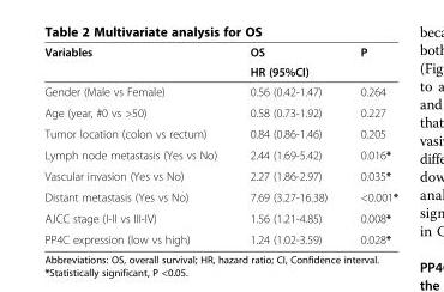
<table><thead><tr><td rowspan="2">Variables</td><td rowspan="2">OS HR (95%CI)</td><td rowspan="2">P</td></tr><tr></tr></thead><tbody><tr><td>Gender (Male vs Female)</td><td>0.56 (0.42-1.47)</td><td>0.264</td></tr><tr><td>Age (year, #0 vs &gt;50)</td><td>0.58 (0.73-1.92)</td><td>0.227</td></tr><tr><td>Tumor location (colon vs rectum)</td><td>0.84 (0.86-1.46)</td><td>0.205</td></tr><tr><td>Lymph node metastasis (Yes vs No)</td><td>2.44 (1.69-5.42)</td><td>0.016*</td></tr><tr><td>Vascular invasion (Yes vs No)</td><td>2.27 (1.86-2.97)</td><td>0.035*</td></tr><tr><td>Distant metastasis (Yes vs No)</td><td>7.69 (3.27-16.38)</td><td>&lt;0.001*</td></tr><tr><td>AJCC stage (I-II vs III-IV)</td><td>1.56 (1.21-4.85)</td><td>0.008*</td></tr><tr><td>PP4C expression (low vs high)</td><td>1.24 (1.02-3.59)</td><td>0.028*</td></tr></tbody></table>